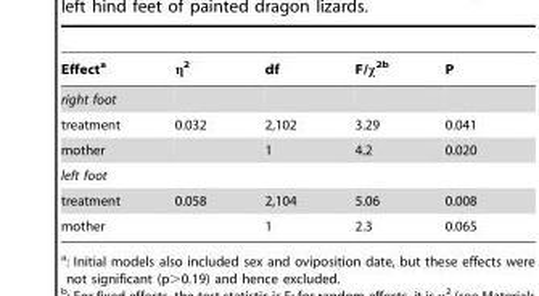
<table><thead><tr><td>Effect<sup>a</sup></td><td>η<sup>2</sup></td><td>df</td><td>F/χ<sup>2</sup>b</td><td>P</td></tr></thead><tbody><tr><td colspan="5">right foot</td></tr><tr><td>treatment</td><td>0.032</td><td>2,102</td><td>3.29</td><td>0.041</td></tr><tr><td>mother</td><td></td><td>1</td><td>4.2</td><td>0.020</td></tr><tr><td colspan="5">left foot</td></tr><tr><td>treatment</td><td>0.058</td><td>2,104</td><td>5.06</td><td>0.008</td></tr><tr><td>mother</td><td></td><td>1</td><td>2.3</td><td>0.065</td></tr></tbody></table>